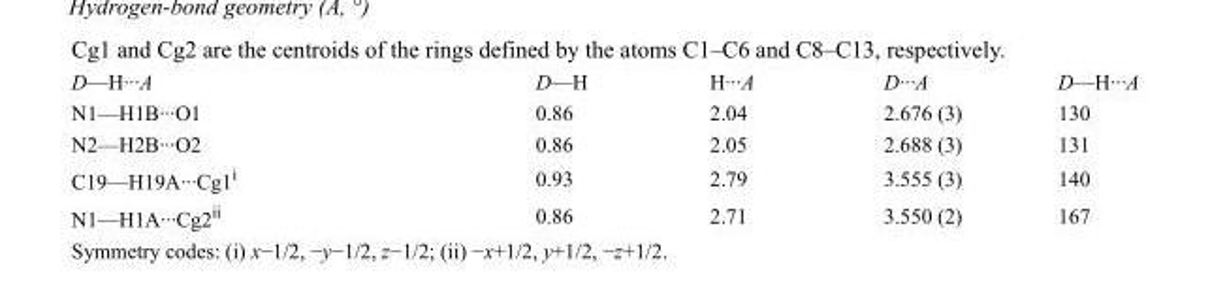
<table><tbody><tr><td>D—H···A</td><td>D—H</td><td>H···A</td><td>D···A</td><td>D—H···A</td></tr><tr><td>N1—H1B···O1</td><td>0.86</td><td>2.04</td><td>2.676 (3)</td><td>130</td></tr><tr><td>N2—H2B···O2</td><td>0.86</td><td>2.05</td><td>2.688 (3)</td><td>131</td></tr><tr><td>C19—H19A···Cg1<sup>i</sup></td><td>0.93</td><td>2.79</td><td>3.555 (3)</td><td>140</td></tr><tr><td>N1—H1A···Cg2<sup>ii</sup></td><td>0.86</td><td>2.71</td><td>3.550 (2)</td><td>167</td></tr></tbody></table>